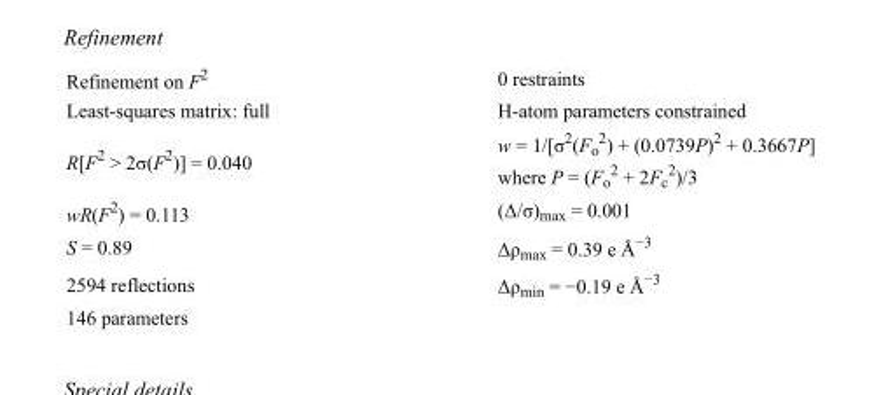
<table><tbody><tr><td>Refinement on F<sup>2</sup></td><td>0 restraints</td></tr><tr><td>Least-squares matrix: full</td><td>H-atom parameters constrained</td></tr><tr><td>R[F<sup>2</sup> &gt; 2σ(F<sup>2</sup>)] = 0.040</td><td>w = 1/[σ<sup>2</sup>(F<sub>o</sub> <sup>2</sup>) + (0.0739P)<sup>2</sup> + 0.3667P] where P = (F<sub>o</sub> <sup>2</sup> + 2F<sub>c</sub> <sup>2</sup>)/3</td></tr><tr><td>wR(F<sup>2</sup>) = 0.113</td><td>(Δ/σ)<sub>max</sub> = 0.001</td></tr><tr><td>S = 0.89</td><td>Δρ<sub>max</sub> = 0.39 e Å<sup>−3</sup></td></tr><tr><td>2594 reflections</td><td>Δρ<sub>min</sub> = −0.19 e Å<sup>−3</sup></td></tr><tr><td>146 parameters</td><td></td></tr></tbody></table>